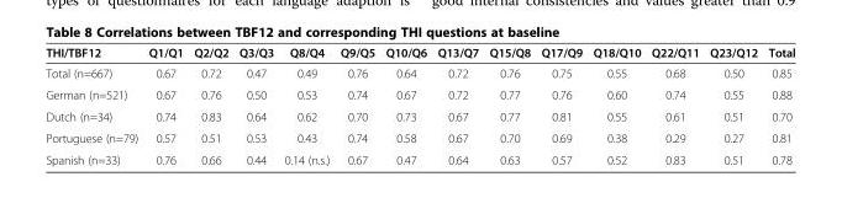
<table><thead><tr><td>THI/TBF12</td><td>Q1/Q1</td><td>Q2/Q2</td><td>Q3/Q3</td><td>Q8/Q4</td><td>Q9/Q5</td><td>Q10/Q6</td><td>Q13/Q7</td><td>Q15/Q8</td><td>Q17/Q9</td><td>Q18/Q10</td><td>Q22/Q11</td><td>Q23/Q12</td><td>Total</td></tr></thead><tbody><tr><td>Total (n=667)</td><td>0.67</td><td>0.72</td><td>0.47</td><td>0.49</td><td>0.76</td><td>0.64</td><td>0.72</td><td>0.76</td><td>0.75</td><td>0.55</td><td>0.68</td><td>0.50</td><td>0.85</td></tr><tr><td>German (n=521)</td><td>0.67</td><td>0.76</td><td>0.50</td><td>0.53</td><td>0.74</td><td>0.67</td><td>0.72</td><td>0.77</td><td>0.76</td><td>0.60</td><td>0.74</td><td>0.55</td><td>0.88</td></tr><tr><td>Dutch (n=34)</td><td>0.74</td><td>0.83</td><td>0.64</td><td>0.62</td><td>0.70</td><td>0.73</td><td>0.67</td><td>0.77</td><td>0.81</td><td>0.55</td><td>0.61</td><td>0.51</td><td>0.70</td></tr><tr><td>Portuguese (n=79)</td><td>0.57</td><td>0.51</td><td>0.53</td><td>0.43</td><td>0.74</td><td>0.58</td><td>0.67</td><td>0.70</td><td>0.69</td><td>0.38</td><td>0.29</td><td>0.27</td><td>0.81</td></tr><tr><td>Spanish (n=33)</td><td>0.76</td><td>0.66</td><td>0.44</td><td>0.14 (n.s.)</td><td>0.67</td><td>0.47</td><td>0.64</td><td>0.63</td><td>0.57</td><td>0.52</td><td>0.83</td><td>0.51</td><td>0.78</td></tr></tbody></table>